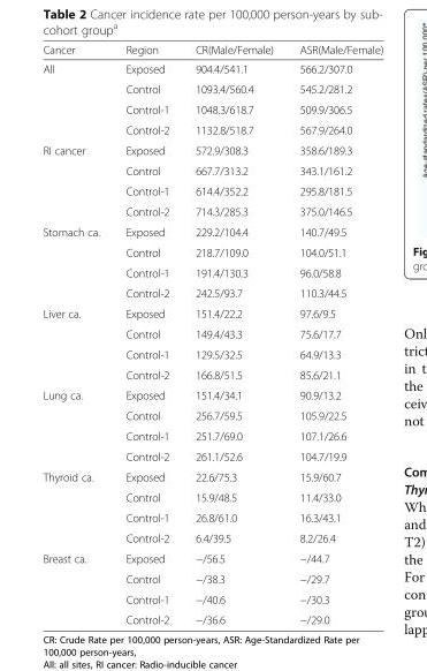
<table><thead><tr><td>Cancer</td><td>Region</td><td>CR(Male/Female)</td><td>ASR(Male/Female)</td></tr></thead><tbody><tr><td rowspan="4">All</td><td>Exposed</td><td>904.4/541.1</td><td>566.2/307.0</td></tr><tr><td>Control</td><td>1093.4/560.4</td><td>545.2/281.2</td></tr><tr><td>Control-1</td><td>1048.3/618.7</td><td>509.9/306.5</td></tr><tr><td>Control-2</td><td>1132.8/518.7</td><td>567.9/264.0</td></tr><tr><td rowspan="4">RI cancer</td><td>Exposed</td><td>572.9/308.3</td><td>358.6/189.3</td></tr><tr><td>Control</td><td>667.7/313.2</td><td>343.1/161.2</td></tr><tr><td>Control-1</td><td>614.4/352.2</td><td>295.8/181.5</td></tr><tr><td>Control-2</td><td>714.3/285.3</td><td>375.0/146.5</td></tr><tr><td rowspan="4">Stomach ca.</td><td>Exposed</td><td>229.2/104.4</td><td>140.7/49.5</td></tr><tr><td>Control</td><td>218.7/109.0</td><td>104.0/51.1</td></tr><tr><td>Control-1</td><td>191.4/130.3</td><td>96.0/58.8</td></tr><tr><td>Control-2</td><td>242.5/93.7</td><td>110.3/44.5</td></tr><tr><td rowspan="4">Liver ca.</td><td>Exposed</td><td>151.4/22.2</td><td>97.6/9.5</td></tr><tr><td>Control</td><td>149.4/43.3</td><td>75.6/17.7</td></tr><tr><td>Control-1</td><td>129.5/32.5</td><td>64.9/13.3</td></tr><tr><td>Control-2</td><td>166.8/51.5</td><td>85.6/21.1</td></tr><tr><td rowspan="4">Lung ca.</td><td>Exposed</td><td>151.4/34.1</td><td>90.9/13.2</td></tr><tr><td>Control</td><td>256.7/59.5</td><td>105.9/22.5</td></tr><tr><td>Control-1</td><td>251.7/69.0</td><td>107.1/26.6</td></tr><tr><td>Control-2</td><td>261.1/52.6</td><td>104.7/19.9</td></tr><tr><td rowspan="4">Thyroid ca.</td><td>Exposed</td><td>22.6/75.3</td><td>15.9/60.7</td></tr><tr><td>Control</td><td>15.9/48.5</td><td>11.4/33.0</td></tr><tr><td>Control-1</td><td>26.8/61.0</td><td>16.3/43.1</td></tr><tr><td>Control-2</td><td>6.4/39.5</td><td>8.2/26.4</td></tr><tr><td rowspan="4">Breast ca.</td><td>Exposed</td><td>−/56.5</td><td>−/44.7</td></tr><tr><td>Control</td><td>−/38.3</td><td>−/29.7</td></tr><tr><td>Control-1</td><td>−/40.6</td><td>−/30.3</td></tr><tr><td>Control-2</td><td>−/36.6</td><td>−/29.0</td></tr></tbody></table>